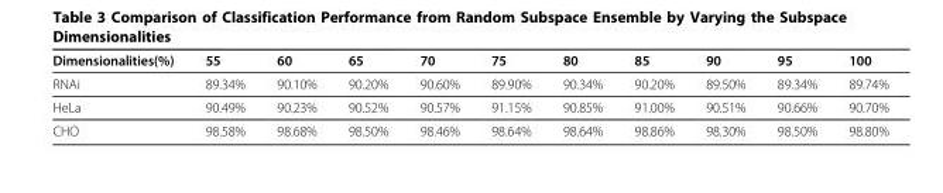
<table><thead><tr><td>Dimensionalities(%)</td><td>55</td><td>60</td><td>65</td><td>70</td><td>75</td><td>80</td><td>85</td><td>90</td><td>95</td><td>100</td></tr></thead><tbody><tr><td>RNAi</td><td>89.34%</td><td>90.10%</td><td>90.20%</td><td>90.60%</td><td>89.90%</td><td>90.34%</td><td>90.20%</td><td>89.50%</td><td>89.34%</td><td>89.74%</td></tr><tr><td>HeLa</td><td>90.49%</td><td>90.23%</td><td>90.52%</td><td>90.57%</td><td>91.15%</td><td>90.85%</td><td>91.00%</td><td>90.51%</td><td>90.66%</td><td>90.70%</td></tr><tr><td>CHO</td><td>98.58%</td><td>98.68%</td><td>98.50%</td><td>98.46%</td><td>98.64%</td><td>98.64%</td><td>98.86%</td><td>98.30%</td><td>98.50%</td><td>98.80%</td></tr></tbody></table>